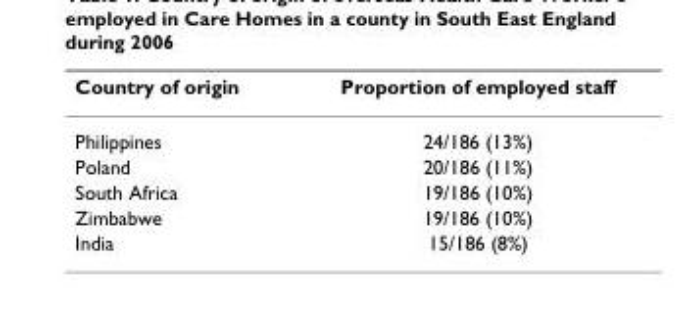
<table><thead><tr><td>Country of origin</td><td>Proportion of employed staff</td></tr></thead><tbody><tr><td>Philippines</td><td>24/186 (13%)</td></tr><tr><td>Poland</td><td>20/186 (11%)</td></tr><tr><td>South Africa</td><td>19/186 (10%)</td></tr><tr><td>Zimbabwe</td><td>19/186 (10%)</td></tr><tr><td>India</td><td>15/186 (8%)</td></tr></tbody></table>